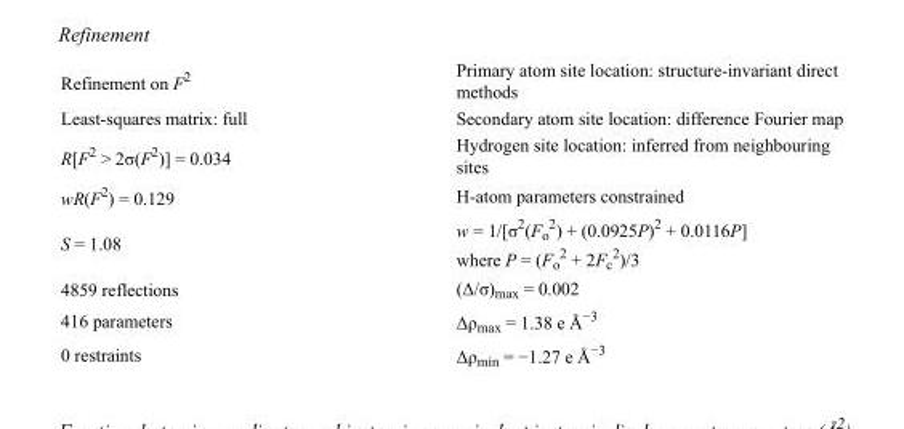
<table><tbody><tr><td>Refinement on F<sup>2</sup></td><td>Primary atom site location: structure-invariant direct methods</td></tr><tr><td>Least-squares matrix: full</td><td>Secondary atom site location: difference Fourier map</td></tr><tr><td>R[F<sup>2</sup> &gt; 2σ(F<sup>2</sup>)] = 0.034</td><td>Hydrogen site location: inferred from neighbouring sites</td></tr><tr><td>wR(F<sup>2</sup>) = 0.129</td><td>H-atom parameters constrained</td></tr><tr><td>S = 1.08</td><td>w = 1/[σ<sup>2</sup>(F<sub>o</sub> <sup>2</sup>) + (0.0925P)<sup>2</sup> + 0.0116P] where P = (F<sub>o</sub> <sup>2</sup> + 2F<sub>c</sub> <sup>2</sup>)/3</td></tr><tr><td>4859 reflections</td><td>(Δ/σ)<sub>max</sub> = 0.002</td></tr><tr><td>416 parameters</td><td>Δρ<sub>max</sub> = 1.38 e Å<sup>−3</sup></td></tr><tr><td>0 restraints</td><td>Δρ<sub>min</sub> = −1.27 e Å<sup>−3</sup></td></tr></tbody></table>